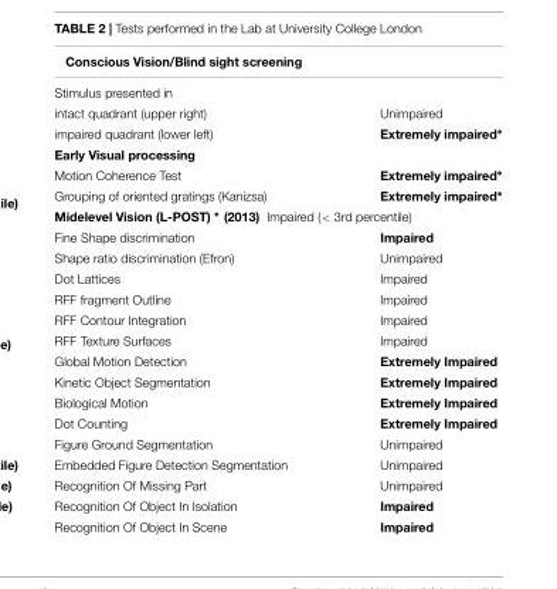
<table><thead><tr><td colspan="2">Conscious Vision/Blind sight screening</td></tr><tr><td>Stimulus presented in</td><td></td></tr></thead><tbody><tr><td>intact quadrant (upper right)</td><td>Unimpaired</td></tr><tr><td>impaired quadrant (lower left)</td><td>Extremely impaired∗</td></tr><tr><td colspan="2">Early Visual processing</td></tr><tr><td>Motion Coherence Test</td><td>Extremely impaired∗</td></tr><tr><td>Grouping of oriented gratings (Kanizsa)</td><td>Extremely impaired∗</td></tr><tr><td colspan="2">Midelevel Vision (L-POST) ∗ (2013) Impaired (&lt; 3rd percentile)</td></tr><tr><td>Fine Shape discrimination</td><td>Impaired</td></tr><tr><td>Shape ratio discrimination (Efron)</td><td>Unimpaired</td></tr><tr><td>Dot Lattices</td><td>Impaired</td></tr><tr><td>RFF fragment Outline</td><td>Impaired</td></tr><tr><td>RFF Contour Integration</td><td>Impaired</td></tr><tr><td>RFF Texture Surfaces</td><td>Impaired</td></tr><tr><td>Global Motion Detection</td><td>Extremely Impaired</td></tr><tr><td>Kinetic Object Segmentation</td><td>Extremely Impaired</td></tr><tr><td>Biological Motion</td><td>Extremely Impaired</td></tr><tr><td>Dot Counting</td><td>Extremely Impaired</td></tr><tr><td>Figure Ground Segmentation</td><td>Unimpaired</td></tr><tr><td>Embedded Figure Detection Segmentation</td><td>Unimpaired</td></tr><tr><td>Recognition Of Missing Part</td><td>Unimpaired</td></tr><tr><td>Recognition Of Object In Isolation</td><td>Impaired</td></tr><tr><td>Recognition Of Object In Scene</td><td>Impaired</td></tr></tbody></table>